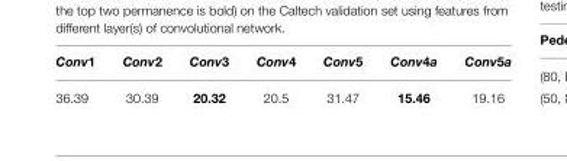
<table><thead><tr><td>Conv1</td><td>Conv2</td><td>Conv3</td><td>Conv4</td><td>Conv5</td><td>Conv4a</td><td>Conv5a</td></tr></thead><tbody><tr><td>36.39</td><td>30.39</td><td>20.32</td><td>20.5</td><td>31.47</td><td>15.46</td><td>19.16</td></tr></tbody></table>